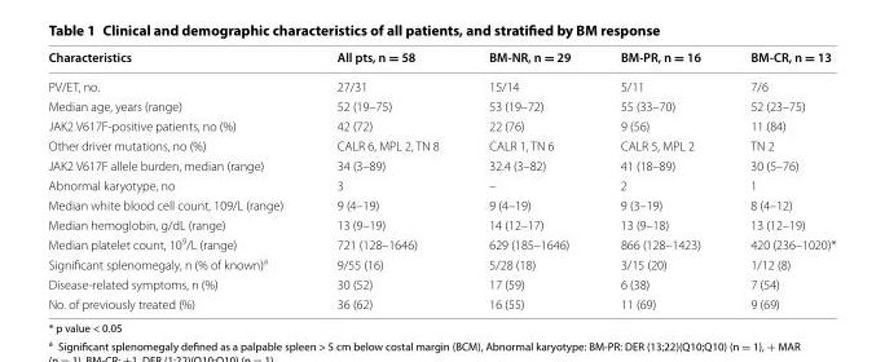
<table><thead><tr><td>Characteristics</td><td>All pts, n = 58</td><td>BM-NR, n = 29</td><td>BM-PR, n = 16</td><td>BM-CR, n = 13</td></tr></thead><tbody><tr><td>PV/ET, no.</td><td>27/31</td><td>15/14</td><td>5/11</td><td>7/6</td></tr><tr><td>Median age, years (range)</td><td>52 (19–75)</td><td>53 (19–72)</td><td>55 (33–70)</td><td>52 (23–75)</td></tr><tr><td>JAK2 V617F‑positive patients, no (%)</td><td>42 (72)</td><td>22 (76)</td><td>9 (56)</td><td>11 (84)</td></tr><tr><td>Other driver mutations, no (%)</td><td>CALR 6, MPL 2, TN 8</td><td>CALR 1, TN 6</td><td>CALR 5, MPL 2</td><td>TN 2</td></tr><tr><td>JAK2 V617F allele burden, median (range)</td><td>34 (3–89)</td><td>32.4 (3–82)</td><td>41 (18–89)</td><td>30 (5–76)</td></tr><tr><td>Abnormal karyotype, no</td><td>3</td><td>–</td><td>2</td><td>1</td></tr><tr><td>Median white blood cell count, 109/L (range)</td><td>9 (4–19)</td><td>9 (4–19)</td><td>9 (3–19)</td><td>8 (4–12)</td></tr><tr><td>Median hemoglobin, g/dL (range)</td><td>13 (9–19)</td><td>14 (12–17)</td><td>13 (9–18)</td><td>13 (12–19)</td></tr><tr><td>Median platelet count, 10<sup>9</sup>/L (range)</td><td>721 (128–1646)</td><td>629 (185–1646)</td><td>866 (128–1423)</td><td>420 (236–1020)*</td></tr><tr><td>Significant splenomegaly, n (% of known)<sup>a</sup></td><td>9/55 (16)</td><td>5/28 (18)</td><td>3/15 (20)</td><td>1/12 (8)</td></tr><tr><td>Disease‑related symptoms, n (%)</td><td>30 (52)</td><td>17 (59)</td><td>6 (38)</td><td>7 (54)</td></tr><tr><td>No. of previously treated (%)</td><td>36 (62)</td><td>16 (55)</td><td>11 (69)</td><td>9 (69)</td></tr></tbody></table>